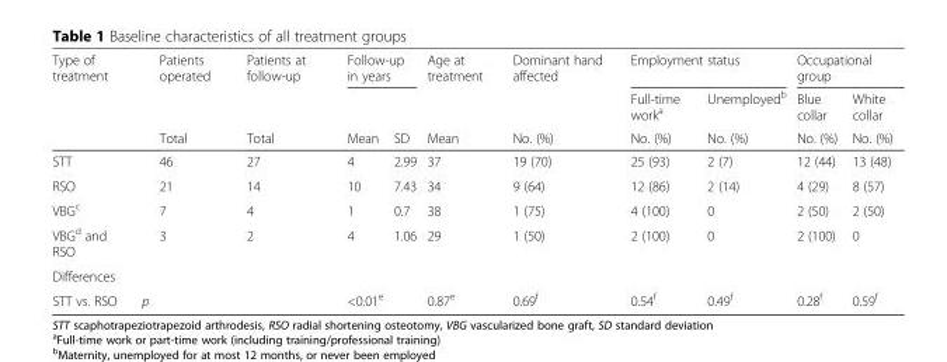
<table><thead><tr><td rowspan="3">Type of treatment</td><td rowspan="3"></td><td rowspan="3">Patients operated Total</td><td rowspan="3">Patients at follow-up Total</td><td colspan="2">Follow-up in years</td><td rowspan="3">Age at treatment Mean</td><td rowspan="3">Dominant hand affected No. (%)</td><td colspan="2">Employment status</td><td colspan="2">Occupational group</td></tr><tr><td rowspan="2">Mean</td><td rowspan="2">SD</td><td rowspan="2">Full-time work<sup>a</sup> No. (%)</td><td rowspan="2">Unemployed<sup>b</sup> No. (%)</td><td rowspan="2">Blue collar No. (%)</td><td rowspan="2">White collar No. (%)</td></tr><tr></tr></thead><tbody><tr><td>STT</td><td></td><td>46</td><td>27</td><td>4</td><td>2.99</td><td>37</td><td>19 (70)</td><td>25 (93)</td><td>2 (7)</td><td>12 (44)</td><td>13 (48)</td></tr><tr><td>RSO</td><td></td><td>21</td><td>14</td><td>10</td><td>7.43</td><td>34</td><td>9 (64)</td><td>12 (86)</td><td>2 (14)</td><td>4 (29)</td><td>8 (57)</td></tr><tr><td>VBG<sup>c</sup></td><td></td><td>7</td><td>4</td><td>1</td><td>0.7</td><td>38</td><td>1 (75)</td><td>4 (100)</td><td>0</td><td>2 (50)</td><td>2 (50)</td></tr><tr><td>VBG<sup>d</sup> and RSO</td><td></td><td>3</td><td>2</td><td>4</td><td>1.06</td><td>29</td><td>1 (50)</td><td>2 (100)</td><td>0</td><td>2 (100)</td><td>0</td></tr><tr><td colspan="12">Differences</td></tr><tr><td>STT vs. RSO</td><td>p</td><td></td><td></td><td>&lt;0.01<sup>e</sup></td><td></td><td>0.87<sup>e</sup></td><td>0.69<sup>f</sup></td><td>0.54<sup>f</sup></td><td>0.49<sup>f</sup></td><td>0.28<sup>f</sup></td><td>0.59<sup>f</sup></td></tr></tbody></table>